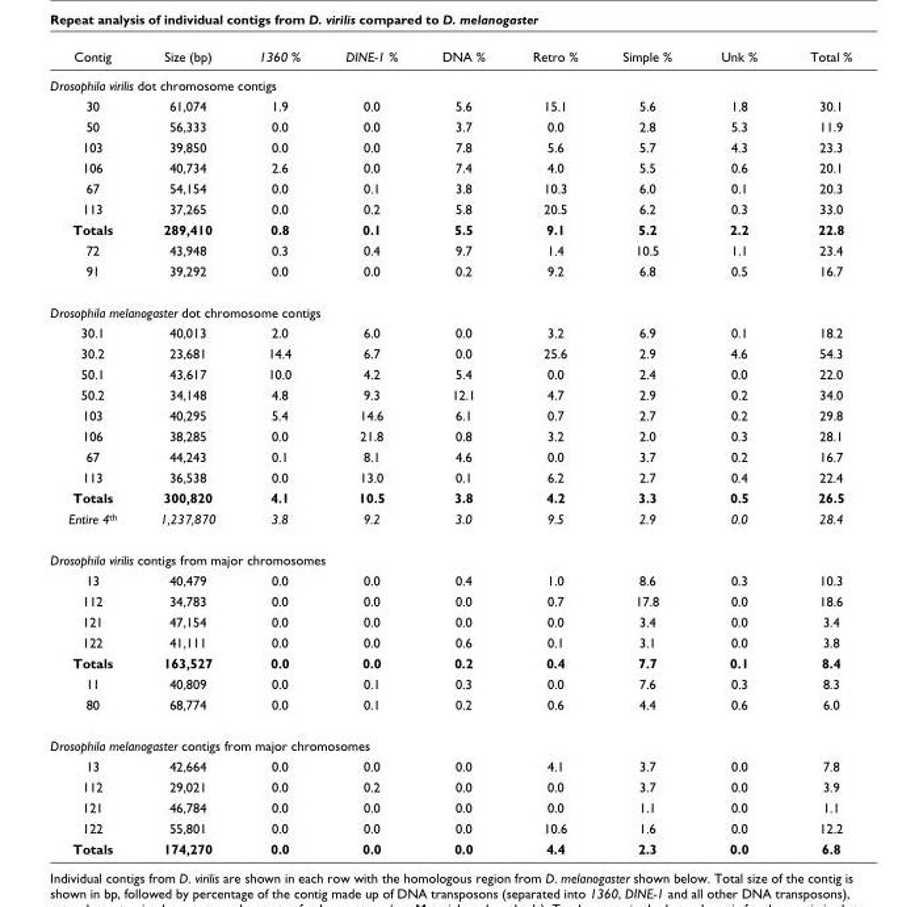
<table><thead><tr><td>Contig</td><td>Size (bp)</td><td>1360 %</td><td>DINE-1 %</td><td>DNA %</td><td>Retro %</td><td>Simple %</td><td>Unk %</td><td>Total %</td></tr></thead><tbody><tr><td colspan="9">Drosophila virilis dot chromosome contigs</td></tr><tr><td>30</td><td>61,074</td><td>1.9</td><td>0.0</td><td>5.6</td><td>15.1</td><td>5.6</td><td>1.8</td><td>30.1</td></tr><tr><td>50</td><td>56,333</td><td>0.0</td><td>0.0</td><td>3.7</td><td>0.0</td><td>2.8</td><td>5.3</td><td>11.9</td></tr><tr><td>103</td><td>39,850</td><td>0.0</td><td>0.0</td><td>7.8</td><td>5.6</td><td>5.7</td><td>4.3</td><td>23.3</td></tr><tr><td>106</td><td>40,734</td><td>2.6</td><td>0.0</td><td>7.4</td><td>4.0</td><td>5.5</td><td>0.6</td><td>20.1</td></tr><tr><td>67</td><td>54,154</td><td>0.0</td><td>0.1</td><td>3.8</td><td>10.3</td><td>6.0</td><td>0.1</td><td>20.3</td></tr><tr><td>113</td><td>37,265</td><td>0.0</td><td>0.2</td><td>5.8</td><td>20.5</td><td>6.2</td><td>0.3</td><td>33.0</td></tr><tr><td>Totals</td><td>289,410</td><td>0.8</td><td>0.1</td><td>5.5</td><td>9.1</td><td>5.2</td><td>2.2</td><td>22.8</td></tr><tr><td>72</td><td>43,948</td><td>0.3</td><td>0.4</td><td>9.7</td><td>1.4</td><td>10.5</td><td>1.1</td><td>23.4</td></tr><tr><td>91</td><td>39,292</td><td>0.0</td><td>0.0</td><td>0.2</td><td>9.2</td><td>6.8</td><td>0.5</td><td>16.7</td></tr><tr><td colspan="9">Drosophila melanogaster dot chromosome contigs</td></tr><tr><td>30.1</td><td>40,013</td><td>2.0</td><td>6.0</td><td>0.0</td><td>3.2</td><td>6.9</td><td>0.1</td><td>18.2</td></tr><tr><td>30.2</td><td>23,681</td><td>14.4</td><td>6.7</td><td>0.0</td><td>25.6</td><td>2.9</td><td>4.6</td><td>54.3</td></tr><tr><td>50.1</td><td>43,617</td><td>10.0</td><td>4.2</td><td>5.4</td><td>0.0</td><td>2.4</td><td>0.0</td><td>22.0</td></tr><tr><td>50.2</td><td>34,148</td><td>4.8</td><td>9.3</td><td>12.1</td><td>4.7</td><td>2.9</td><td>0.2</td><td>34.0</td></tr><tr><td>103</td><td>40,295</td><td>5.4</td><td>14.6</td><td>6.1</td><td>0.7</td><td>2.7</td><td>0.2</td><td>29.8</td></tr><tr><td>106</td><td>38,285</td><td>0.0</td><td>21.8</td><td>0.8</td><td>3.2</td><td>2.0</td><td>0.3</td><td>28.1</td></tr><tr><td>67</td><td>44,243</td><td>0.1</td><td>8.1</td><td>4.6</td><td>0.0</td><td>3.7</td><td>0.2</td><td>16.7</td></tr><tr><td>113</td><td>36,538</td><td>0.0</td><td>13.0</td><td>0.1</td><td>6.2</td><td>2.7</td><td>0.4</td><td>22.4</td></tr><tr><td>Totals</td><td>300,820</td><td>4.1</td><td>10.5</td><td>3.8</td><td>4.2</td><td>3.3</td><td>0.5</td><td>26.5</td></tr><tr><td>Entire 4th</td><td>1,237,870</td><td>3.8</td><td>9.2</td><td>3.0</td><td>9.5</td><td>2.9</td><td>0.0</td><td>28.4</td></tr><tr><td colspan="9">Drosophila virilis contigs from major chromosomes</td></tr><tr><td>13</td><td>40,479</td><td>0.0</td><td>0.0</td><td>0.4</td><td>1.0</td><td>8.6</td><td>0.3</td><td>10.3</td></tr><tr><td>112</td><td>34,783</td><td>0.0</td><td>0.0</td><td>0.0</td><td>0.7</td><td>17.8</td><td>0.0</td><td>18.6</td></tr><tr><td>121</td><td>47,154</td><td>0.0</td><td>0.0</td><td>0.0</td><td>0.0</td><td>3.4</td><td>0.0</td><td>3.4</td></tr><tr><td>122</td><td>41,111</td><td>0.0</td><td>0.0</td><td>0.6</td><td>0.1</td><td>3.1</td><td>0.0</td><td>3.8</td></tr><tr><td>Totals</td><td>163,527</td><td>0.0</td><td>0.0</td><td>0.2</td><td>0.4</td><td>7.7</td><td>0.1</td><td>8.4</td></tr><tr><td>11</td><td>40,809</td><td>0.0</td><td>0.1</td><td>0.3</td><td>0.0</td><td>7.6</td><td>0.3</td><td>8.3</td></tr><tr><td>80</td><td>68,774</td><td>0.0</td><td>0.1</td><td>0.2</td><td>0.6</td><td>4.4</td><td>0.6</td><td>6.0</td></tr><tr><td colspan="9">Drosophila melanogaster contigs from major chromosomes</td></tr><tr><td>13</td><td>42,664</td><td>0.0</td><td>0.0</td><td>0.0</td><td>4.1</td><td>3.7</td><td>0.0</td><td>7.8</td></tr><tr><td>112</td><td>29,021</td><td>0.0</td><td>0.2</td><td>0.0</td><td>0.0</td><td>3.7</td><td>0.0</td><td>3.9</td></tr><tr><td>121</td><td>46,784</td><td>0.0</td><td>0.0</td><td>0.0</td><td>0.0</td><td>1.1</td><td>0.0</td><td>1.1</td></tr><tr><td>122</td><td>55,801</td><td>0.0</td><td>0.0</td><td>0.0</td><td>10.6</td><td>1.6</td><td>0.0</td><td>12.2</td></tr><tr><td>Totals</td><td>174,270</td><td>0.0</td><td>0.0</td><td>0.0</td><td>4.4</td><td>2.3</td><td>0.0</td><td>6.8</td></tr></tbody></table>